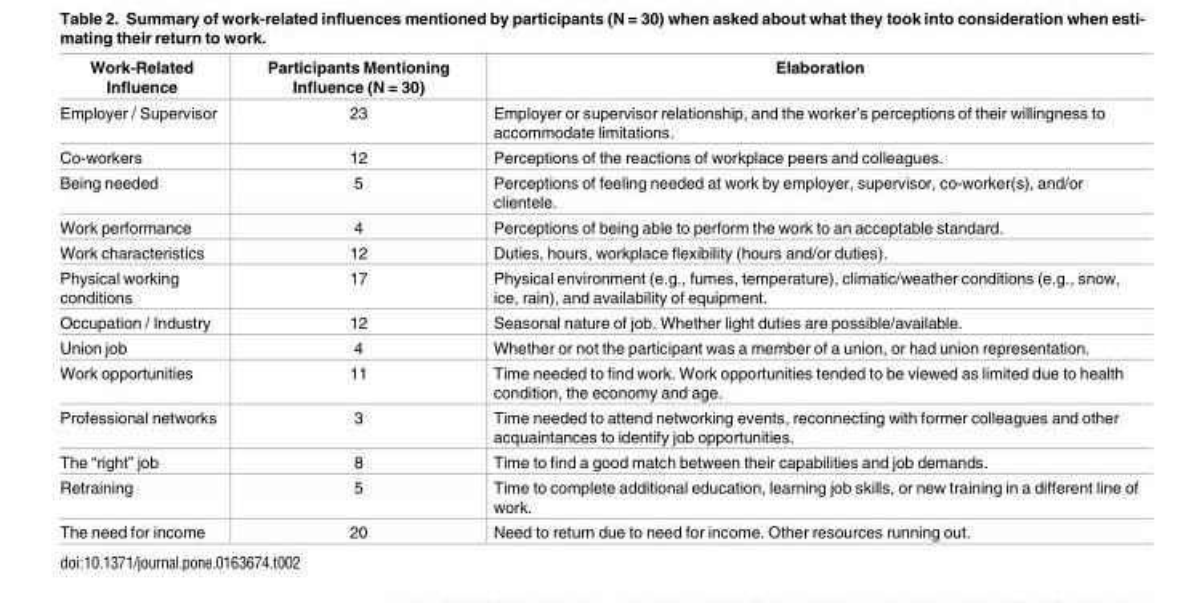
<table><thead><tr><td>Work-Related Influence</td><td>Participants Mentioning Influence (N = 30)</td><td>Elaboration</td></tr></thead><tbody><tr><td>Employer / Supervisor</td><td>23</td><td>Employer or supervisor relationship, and the worker’s perceptions of their willingness to accommodate limitations.</td></tr><tr><td>Co-workers</td><td>12</td><td>Perceptions of the reactions of workplace peers and colleagues.</td></tr><tr><td>Being needed</td><td>5</td><td>Perceptions of feeling needed at work by employer, supervisor, co-worker(s), and/or clientele.</td></tr><tr><td>Work performance</td><td>4</td><td>Perceptions of being able to perform the work to an acceptable standard.</td></tr><tr><td>Work characteristics</td><td>12</td><td>Duties, hours, workplace flexibility (hours and/or duties).</td></tr><tr><td>Physical working conditions</td><td>17</td><td>Physical environment (e.g., fumes, temperature), climatic/weather conditions (e.g., snow, ice, rain), and availability of equipment.</td></tr><tr><td>Occupation / Industry</td><td>12</td><td>Seasonal nature of job. Whether light duties are possible/available.</td></tr><tr><td>Union job</td><td>4</td><td>Whether or not the participant was a member of a union, or had union representation.</td></tr><tr><td>Work opportunities</td><td>11</td><td>Time needed to find work. Work opportunities tended to be viewed as limited due to health condition, the economy and age.</td></tr><tr><td>Professional networks</td><td>3</td><td>Time needed to attend networking events, reconnecting with former colleagues and other acquaintances to identify job opportunities.</td></tr><tr><td>The “right” job</td><td>8</td><td>Time to find a good match between their capabilities and job demands.</td></tr><tr><td>Retraining</td><td>5</td><td>Time to complete additional education, learning job skills, or new training in a different line of work.</td></tr><tr><td>The need for income</td><td>20</td><td>Need to return due to need for income. Other resources running out.</td></tr></tbody></table>